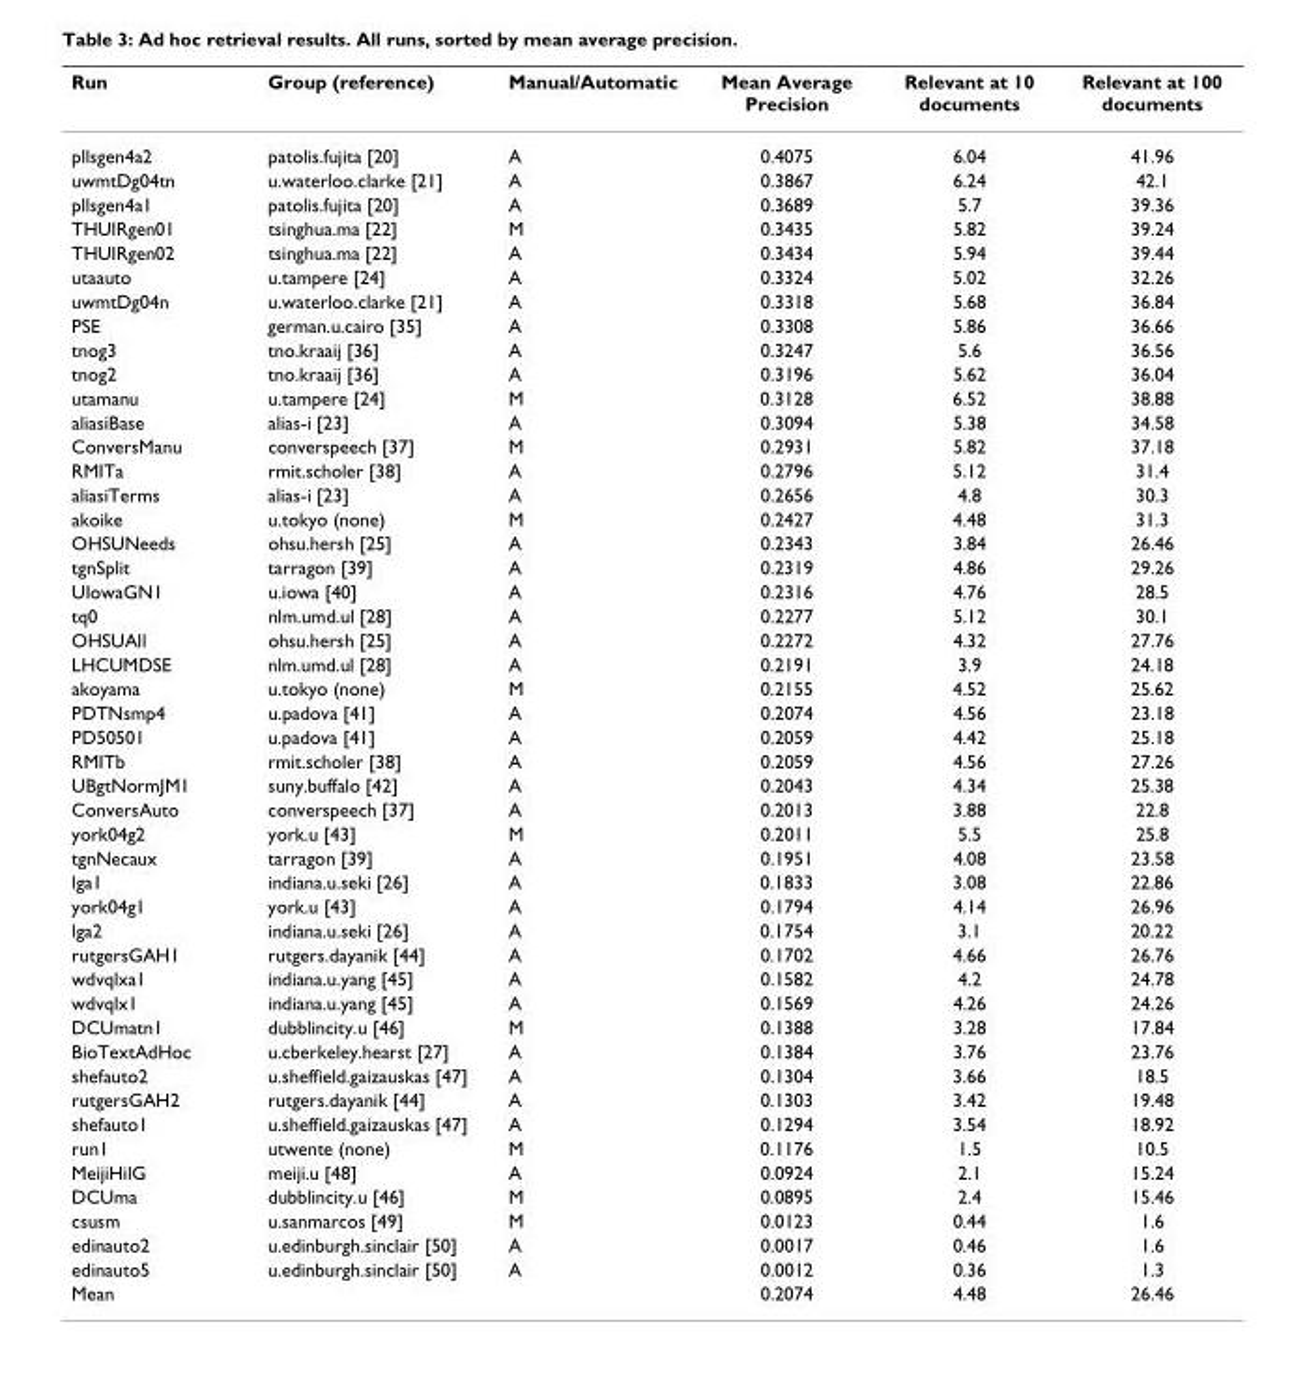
<table><thead><tr><td>Run</td><td>Group (reference)</td><td>Manual/Automatic</td><td>Mean Average Precision</td><td>Relevant at 10 documents</td><td>Relevant at 100 documents</td></tr></thead><tbody><tr><td>pllsgen4a2</td><td>patolis.fujita [20]</td><td>A</td><td>0.4075</td><td>6.04</td><td>41.96</td></tr><tr><td>uwmtDg04tn</td><td>u.waterloo.clarke [21]</td><td>A</td><td>0.3867</td><td>6.24</td><td>42.1</td></tr><tr><td>pllsgen4a1</td><td>patolis.fujita [20]</td><td>A</td><td>0.3689</td><td>5.7</td><td>39.36</td></tr><tr><td>THUIRgen01</td><td>tsinghua.ma [22]</td><td>M</td><td>0.3435</td><td>5.82</td><td>39.24</td></tr><tr><td>THUIRgen02</td><td>tsinghua.ma [22]</td><td>A</td><td>0.3434</td><td>5.94</td><td>39.44</td></tr><tr><td>utaauto</td><td>u.tampere [24]</td><td>A</td><td>0.3324</td><td>5.02</td><td>32.26</td></tr><tr><td>uwmtDg04n</td><td>u.waterloo.clarke [21]</td><td>A</td><td>0.3318</td><td>5.68</td><td>36.84</td></tr><tr><td>PSE</td><td>german.u.cairo [35]</td><td>A</td><td>0.3308</td><td>5.86</td><td>36.66</td></tr><tr><td>tnog3</td><td>tno.kraaij [36]</td><td>A</td><td>0.3247</td><td>5.6</td><td>36.56</td></tr><tr><td>tnog2</td><td>tno.kraaij [36]</td><td>A</td><td>0.3196</td><td>5.62</td><td>36.04</td></tr><tr><td>utamanu</td><td>u.tampere [24]</td><td>M</td><td>0.3128</td><td>6.52</td><td>38.88</td></tr><tr><td>aliasiBase</td><td>alias-i [23]</td><td>A</td><td>0.3094</td><td>5.38</td><td>34.58</td></tr><tr><td>ConversManu</td><td>converspeech [37]</td><td>M</td><td>0.2931</td><td>5.82</td><td>37.18</td></tr><tr><td>RMITa</td><td>rmit.scholer [38]</td><td>A</td><td>0.2796</td><td>5.12</td><td>31.4</td></tr><tr><td>aliasiTerms</td><td>alias-i [23]</td><td>A</td><td>0.2656</td><td>4.8</td><td>30.3</td></tr><tr><td>akoike</td><td>u.tokyo (none)</td><td>M</td><td>0.2427</td><td>4.48</td><td>31.3</td></tr><tr><td>OHSUNeeds</td><td>ohsu.hersh [25]</td><td>A</td><td>0.2343</td><td>3.84</td><td>26.46</td></tr><tr><td>tgnSplit</td><td>tarragon [39]</td><td>A</td><td>0.2319</td><td>4.86</td><td>29.26</td></tr><tr><td>UIowaGN1</td><td>u.iowa [40]</td><td>A</td><td>0.2316</td><td>4.76</td><td>28.5</td></tr><tr><td>tq0</td><td>nlm.umd.ul [28]</td><td>A</td><td>0.2277</td><td>5.12</td><td>30.1</td></tr><tr><td>OHSUAll</td><td>ohsu.hersh [25]</td><td>A</td><td>0.2272</td><td>4.32</td><td>27.76</td></tr><tr><td>LHCUMDSE</td><td>nlm.umd.ul [28]</td><td>A</td><td>0.2191</td><td>3.9</td><td>24.18</td></tr><tr><td>akoyama</td><td>u.tokyo (none)</td><td>M</td><td>0.2155</td><td>4.52</td><td>25.62</td></tr><tr><td>PDTNsmp4</td><td>u.padova [41]</td><td>A</td><td>0.2074</td><td>4.56</td><td>23.18</td></tr><tr><td>PD50501</td><td>u.padova [41]</td><td>A</td><td>0.2059</td><td>4.42</td><td>25.18</td></tr><tr><td>RMITb</td><td>rmit.scholer [38]</td><td>A</td><td>0.2059</td><td>4.56</td><td>27.26</td></tr><tr><td>UBgtNormJM1</td><td>suny.buffalo [42]</td><td>A</td><td>0.2043</td><td>4.34</td><td>25.38</td></tr><tr><td>ConversAuto</td><td>converspeech [37]</td><td>A</td><td>0.2013</td><td>3.88</td><td>22.8</td></tr><tr><td>york04g2</td><td>york.u [43]</td><td>M</td><td>0.2011</td><td>5.5</td><td>25.8</td></tr><tr><td>tgnNecaux</td><td>tarragon [39]</td><td>A</td><td>0.1951</td><td>4.08</td><td>23.58</td></tr><tr><td>lga1</td><td>indiana.u.seki [26]</td><td>A</td><td>0.1833</td><td>3.08</td><td>22.86</td></tr><tr><td>york04g1</td><td>york.u [43]</td><td>A</td><td>0.1794</td><td>4.14</td><td>26.96</td></tr><tr><td>lga2</td><td>indiana.u.seki [26]</td><td>A</td><td>0.1754</td><td>3.1</td><td>20.22</td></tr><tr><td>rutgersGAH1</td><td>rutgers.dayanik [44]</td><td>A</td><td>0.1702</td><td>4.66</td><td>26.76</td></tr><tr><td>wdvqlxa1</td><td>indiana.u.yang [45]</td><td>A</td><td>0.1582</td><td>4.2</td><td>24.78</td></tr><tr><td>wdvqlx1</td><td>indiana.u.yang [45]</td><td>A</td><td>0.1569</td><td>4.26</td><td>24.26</td></tr><tr><td>DCUmatn1</td><td>dubblincity.u [46]</td><td>M</td><td>0.1388</td><td>3.28</td><td>17.84</td></tr><tr><td>BioTextAdHoc</td><td>u.cberkeley.hearst [27]</td><td>A</td><td>0.1384</td><td>3.76</td><td>23.76</td></tr><tr><td>shefauto2</td><td>u.sheffield.gaizauskas [47]</td><td>A</td><td>0.1304</td><td>3.66</td><td>18.5</td></tr><tr><td>rutgersGAH2</td><td>rutgers.dayanik [44]</td><td>A</td><td>0.1303</td><td>3.42</td><td>19.48</td></tr><tr><td>shefauto1</td><td>u.sheffield.gaizauskas [47]</td><td>A</td><td>0.1294</td><td>3.54</td><td>18.92</td></tr><tr><td>run1</td><td>utwente (none)</td><td>M</td><td>0.1176</td><td>1.5</td><td>10.5</td></tr><tr><td>MeijiHilG</td><td>meiji.u [48]</td><td>A</td><td>0.0924</td><td>2.1</td><td>15.24</td></tr><tr><td>DCUma</td><td>dubblincity.u [46]</td><td>M</td><td>0.0895</td><td>2.4</td><td>15.46</td></tr><tr><td>csusm</td><td>u.sanmarcos [49]</td><td>M</td><td>0.0123</td><td>0.44</td><td>1.6</td></tr><tr><td>edinauto2</td><td>u.edinburgh.sinclair [50]</td><td>A</td><td>0.0017</td><td>0.46</td><td>1.6</td></tr><tr><td>edinauto5</td><td>u.edinburgh.sinclair [50]</td><td>A</td><td>0.0012</td><td>0.36</td><td>1.3</td></tr><tr><td>Mean</td><td></td><td></td><td>0.2074</td><td>4.48</td><td>26.46</td></tr></tbody></table>